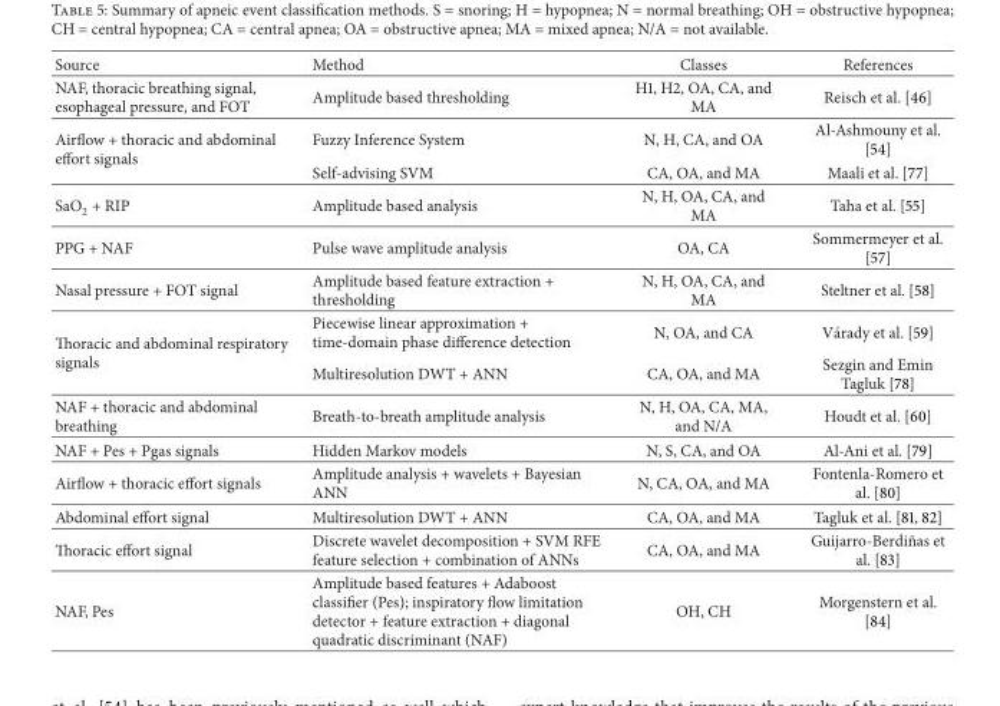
<table><thead><tr><td>Source</td><td>Method</td><td>Classes</td><td>References</td></tr></thead><tbody><tr><td>NAF, thoracic breathing signal, esophageal pressure, and FOT</td><td>Amplitude based thresholding</td><td>H1, H2, OA, CA, and MA</td><td>Reisch et al. [46]</td></tr><tr><td rowspan="2">Airflow + thoracic and abdominal effort signals</td><td>Fuzzy Inference System</td><td>N, H, CA, and OA</td><td>Al-Ashmouny et al. [54]</td></tr><tr><td>Self-advising SVM</td><td>CA, OA, and MA</td><td>Maali et al. [77]</td></tr><tr><td>SaO2 + RIP</td><td>Amplitude based analysis</td><td>N, H, OA, CA, and MA</td><td>Taha et al. [55]</td></tr><tr><td>PPG + NAF</td><td>Pulse wave amplitude analysis</td><td>OA, CA</td><td>Sommermeyer et al. [57]</td></tr><tr><td>Nasal pressure + FOT signal</td><td>Amplitude based feature extraction + thresholding</td><td>N, H, OA, CA, and MA</td><td>Steltner et al. [58]</td></tr><tr><td rowspan="2">Thoracic and abdominal respiratory signals</td><td>Piecewise linear approximation + time-domain phase difference detection</td><td>N, OA, and CA</td><td>V´arady et al. [59]</td></tr><tr><td>Multiresolution DWT + ANN</td><td>CA, OA, and MA</td><td>Sezgin and Emin Tagluk [78]</td></tr><tr><td>NAF + thoracic and abdominal breathing</td><td>Breath-to-breath amplitude analysis</td><td>N, H, OA, CA, MA, and N/A</td><td>Houdt et al. [60]</td></tr><tr><td>NAF + Pes + Pgas signals</td><td>Hidden Markov models</td><td>N, S, CA, and OA</td><td>Al-Ani et al. [79]</td></tr><tr><td>Airflow + thoracic effort signals</td><td>Amplitude analysis + wavelets + Bayesian ANN</td><td>N, CA, OA, and MA</td><td>Fontenla-Romero et al. [80]</td></tr><tr><td>Abdominal effort signal</td><td>Multiresolution DWT + ANN</td><td>CA, OA, and MA</td><td>Tagluk et al. [81, 82]</td></tr><tr><td>Thoracic effort signal</td><td>Discrete wavelet decomposition + SVM RFE feature selection + combination of ANNs</td><td>CA, OA, and MA</td><td>Guijarro-Berdi˜nas et al. [83]</td></tr><tr><td>NAF, Pes</td><td>Amplitude based features + Adaboost classifier (Pes); inspiratory flow limitation detector + feature extraction + diagonal quadratic discriminant (NAF)</td><td>OH, CH</td><td>Morgenstern et al. [84]</td></tr></tbody></table>